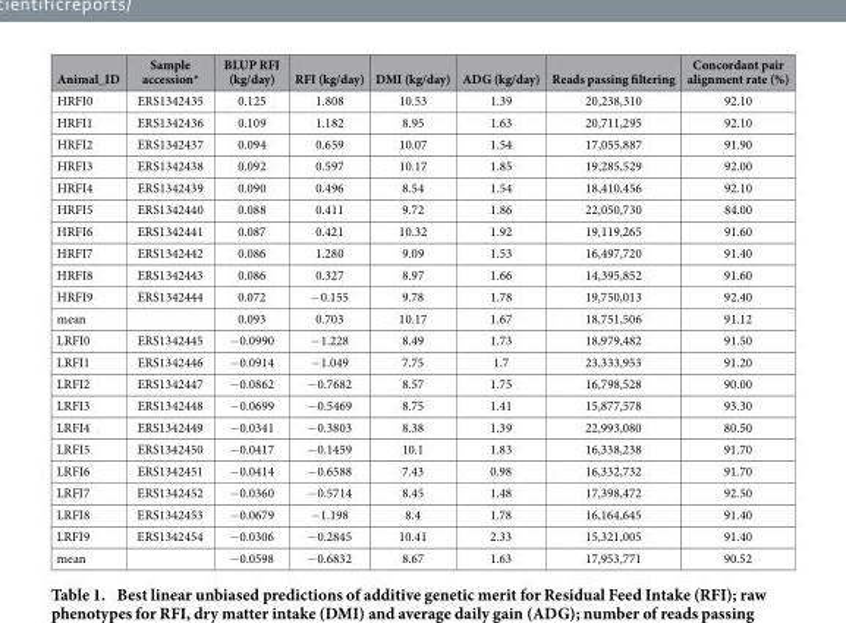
<table><thead><tr><td>Animal_ID</td><td>Sample accession*</td><td>BLUP RFI (kg/day)</td><td>RFI (kg/day)</td><td>DMI (kg/day)</td><td>ADG (kg/day)</td><td>Reads passing filtering</td><td>Concordant pair alignment rate (%)</td></tr></thead><tbody><tr><td>HRFI0</td><td>ERS1342435</td><td>0.125</td><td>1.808</td><td>10.53</td><td>1.39</td><td>20,238,310</td><td>92.10</td></tr><tr><td>HRFI1</td><td>ERS1342436</td><td>0.109</td><td>1.182</td><td>8.95</td><td>1.63</td><td>20,711,295</td><td>92.10</td></tr><tr><td>HRFI2</td><td>ERS1342437</td><td>0.094</td><td>0.659</td><td>10.07</td><td>1.54</td><td>17,055,887</td><td>91.90</td></tr><tr><td>HRFI3</td><td>ERS1342438</td><td>0.092</td><td>0.597</td><td>10.17</td><td>1.85</td><td>19,285,529</td><td>92.00</td></tr><tr><td>HRFI4</td><td>ERS1342439</td><td>0.090</td><td>0.496</td><td>8.54</td><td>1.54</td><td>18,410,456</td><td>92.10</td></tr><tr><td>HRFI5</td><td>ERS1342440</td><td>0.088</td><td>0.411</td><td>9.72</td><td>1.86</td><td>22,050,730</td><td>84.00</td></tr><tr><td>HRFI6</td><td>ERS1342441</td><td>0.087</td><td>0.421</td><td>10.32</td><td>1.92</td><td>19,119,265</td><td>91.60</td></tr><tr><td>HRFI7</td><td>ERS1342442</td><td>0.086</td><td>1.280</td><td>9.09</td><td>1.53</td><td>16,497,720</td><td>91.40</td></tr><tr><td>HRFI8</td><td>ERS1342443</td><td>0.086</td><td>0.327</td><td>8.97</td><td>1.66</td><td>14,395,852</td><td>91.60</td></tr><tr><td>HRFI9</td><td>ERS1342444</td><td>0.072</td><td>− 0.155</td><td>9.78</td><td>1.78</td><td>19,750,013</td><td>92.40</td></tr><tr><td>mean</td><td></td><td>0.093</td><td>0.703</td><td>10.17</td><td>1.67</td><td>18,751,506</td><td>91.12</td></tr><tr><td>LRFI0</td><td>ERS1342445</td><td>− 0.0990</td><td>− 1.228</td><td>8.49</td><td>1.73</td><td>18,979,482</td><td>91.50</td></tr><tr><td>LRFI1</td><td>ERS1342446</td><td>− 0.0914</td><td>− 1.049</td><td>7.75</td><td>1.7</td><td>23,333,953</td><td>91.20</td></tr><tr><td>LRFI2</td><td>ERS1342447</td><td>− 0.0862</td><td>− 0.7682</td><td>8.57</td><td>1.75</td><td>16,798,528</td><td>90.00</td></tr><tr><td>LRFI3</td><td>ERS1342448</td><td>− 0.0699</td><td>− 0.5469</td><td>8.75</td><td>1.41</td><td>15,877,578</td><td>93.30</td></tr><tr><td>LRFI4</td><td>ERS1342449</td><td>− 0.0341</td><td>− 0.3803</td><td>8.38</td><td>1.39</td><td>22,993,080</td><td>80.50</td></tr><tr><td>LRFI5</td><td>ERS1342450</td><td>− 0.0417</td><td>− 0.1459</td><td>10.1</td><td>1.83</td><td>16,338,238</td><td>91.70</td></tr><tr><td>LRFI6</td><td>ERS1342451</td><td>− 0.0414</td><td>− 0.6588</td><td>7.43</td><td>0.98</td><td>16,332,732</td><td>91.70</td></tr><tr><td>LRFI7</td><td>ERS1342452</td><td>− 0.0360</td><td>− 0.5714</td><td>8.45</td><td>1.48</td><td>17,398,472</td><td>92.50</td></tr><tr><td>LRFI8</td><td>ERS1342453</td><td>− 0.0679</td><td>− 1.198</td><td>8.4</td><td>1.78</td><td>16,164,645</td><td>91.40</td></tr><tr><td>LRFI9</td><td>ERS1342454</td><td>− 0.0306</td><td>− 0.2845</td><td>10.41</td><td>2.33</td><td>15,321,005</td><td>91.40</td></tr><tr><td>mean</td><td></td><td>− 0.0598</td><td>− 0.6832</td><td>8.67</td><td>1.63</td><td>17,953,771</td><td>90.52</td></tr></tbody></table>